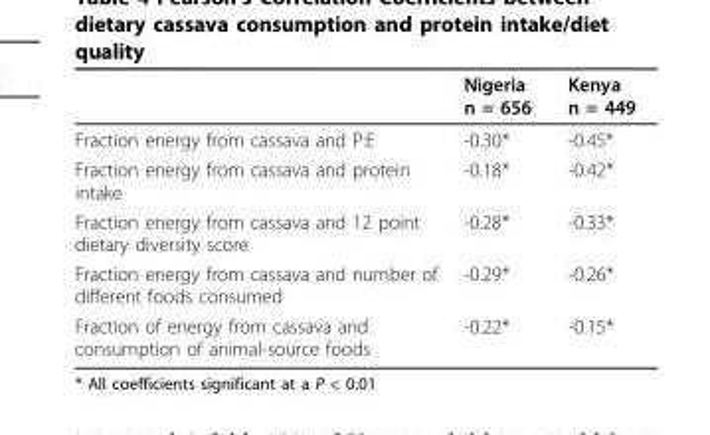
<table><thead><tr><td></td><td>Nigeria n = 656</td><td>Kenya n = 449</td></tr></thead><tbody><tr><td>Fraction energy from cassava and P:E</td><td>-0.30*</td><td>-0.45*</td></tr><tr><td>Fraction energy from cassava and protein intake</td><td>-0.18*</td><td>-0.42*</td></tr><tr><td>Fraction energy from cassava and 12 point dietary diversity score</td><td>-0.28*</td><td>-0.33*</td></tr><tr><td>Fraction energy from cassava and number of different foods consumed</td><td>-0.29*</td><td>-0.26*</td></tr><tr><td>Fraction of energy from cassava and consumption of animal-source foods</td><td>-0.22*</td><td>-0.15*</td></tr></tbody></table>